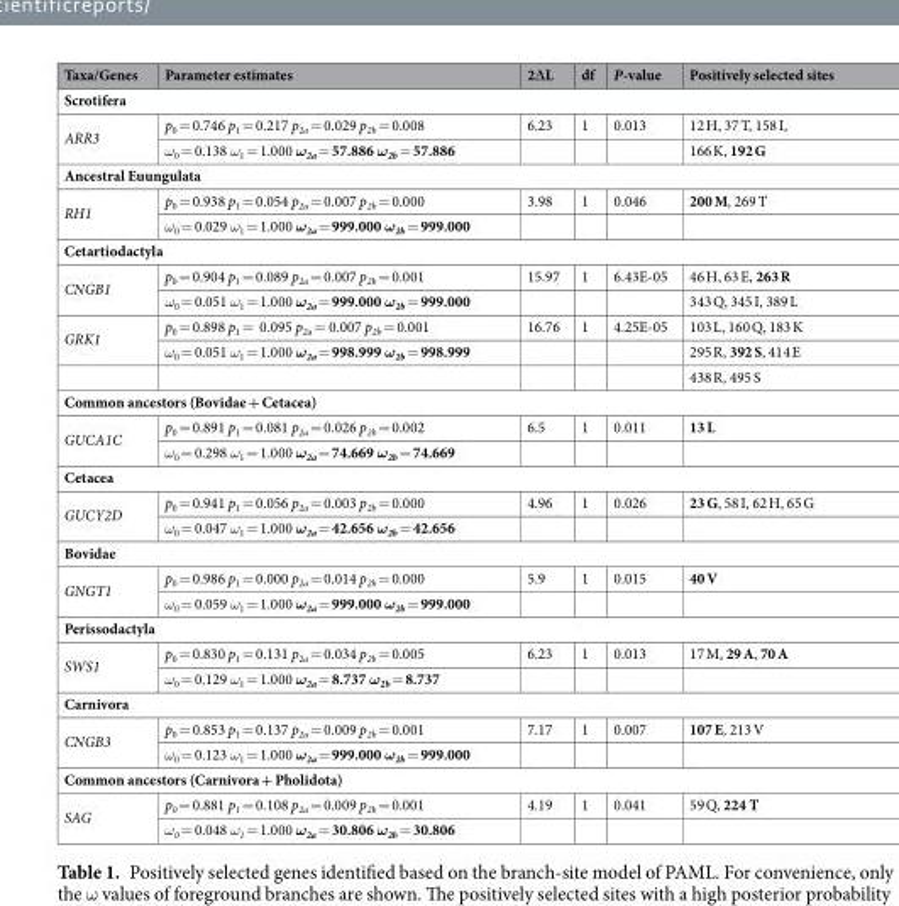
<table><thead><tr><td>Taxa/Genes</td><td>Parameter estimates</td><td>2∆L</td><td>df</td><td>P-value</td><td>Positively selected sites</td></tr></thead><tbody><tr><td colspan="6">Scrotifera</td></tr><tr><td rowspan="2">ARR3</td><td>p<sub>0</sub> = 0.746 p<sub>1</sub> = 0.217 p<sub>2a</sub> = 0.029 p<sub>2b</sub> = 0.008</td><td>6.23</td><td>1</td><td>0.013</td><td>12 H, 37 T, 158 I,</td></tr><tr><td>ω<sub>0</sub> = 0.138 ω<sub>1</sub> = 1.000 ω<sub>2a</sub> = 57.886 ω<sub>2b</sub> = 57.886</td><td></td><td></td><td></td><td>166 K, 192 G</td></tr><tr><td colspan="6">Ancestral Euungulata</td></tr><tr><td rowspan="2">RH1</td><td>p<sub>0</sub> = 0.938 p<sub>1</sub> = 0.054 p<sub>2a</sub> = 0.007 p<sub>2b</sub> = 0.000</td><td>3.98</td><td>1</td><td>0.046</td><td>200 M, 269 T</td></tr><tr><td>ω<sub>0</sub> = 0.029 ω<sub>1</sub> = 1.000 ω<sub>2a</sub> = 999.000 ω<sub>2b</sub> = 999.000</td><td></td><td></td><td></td><td></td></tr><tr><td colspan="6">Cetartiodactyla</td></tr><tr><td rowspan="2">CNGB1</td><td>p<sub>0</sub> = 0.904 p<sub>1</sub> = 0.089 p<sub>2a</sub> = 0.007 p<sub>2b</sub> = 0.001</td><td>15.97</td><td>1</td><td>6.43E-05</td><td>46 H, 63 E, 263 R</td></tr><tr><td>ω<sub>0</sub> = 0.051 ω<sub>1</sub> = 1.000 ω<sub>2a</sub> = 999.000 ω<sub>2b</sub> = 999.000</td><td></td><td></td><td></td><td>343 Q, 345 I, 389 L</td></tr><tr><td rowspan="3">GRK1</td><td>p<sub>0</sub> = 0.898 p<sub>1</sub> = 0.095 p<sub>2a</sub> = 0.007 p<sub>2b</sub> = 0.001</td><td>16.76</td><td>1</td><td>4.25E-05</td><td>103 L, 160 Q, 183 K</td></tr><tr><td>ω<sub>0</sub> = 0.051 ω<sub>1</sub> = 1.000 ω<sub>2a</sub> = 998.999 ω<sub>2b</sub> = 998.999</td><td></td><td></td><td></td><td>295 R, 392 S, 414 E</td></tr><tr><td></td><td></td><td></td><td></td><td>438 R, 495 S</td></tr><tr><td colspan="6">Common ancestors (Bovidae + Cetacea)</td></tr><tr><td rowspan="2">GUCA1C</td><td>p<sub>0</sub> = 0.891 p<sub>1</sub> = 0.081 p<sub>2a</sub> = 0.026 p<sub>2b</sub> = 0.002</td><td>6.5</td><td>1</td><td>0.011</td><td>13 L</td></tr><tr><td>ω<sub>0</sub> = 0.298 ω<sub>1</sub> = 1.000 ω<sub>2a</sub> = 74.669 ω<sub>2b</sub> = 74.669</td><td></td><td></td><td></td><td></td></tr><tr><td colspan="6">Cetacea</td></tr><tr><td rowspan="2">GUCY2D</td><td>p<sub>0</sub> = 0.941 p<sub>1</sub> = 0.056 p<sub>2a</sub> = 0.003 p<sub>2b</sub> = 0.000</td><td>4.96</td><td>1</td><td>0.026</td><td>23 G, 58 I, 62 H, 65 G</td></tr><tr><td>ω<sub>0</sub> = 0.047 ω<sub>1</sub> = 1.000 ω<sub>2a</sub> = 42.656 ω<sub>2b</sub> = 42.656</td><td></td><td></td><td></td><td></td></tr><tr><td colspan="6">Bovidae</td></tr><tr><td rowspan="2">GNGT1</td><td>p<sub>0</sub> = 0.986 p<sub>1</sub> = 0.000 p<sub>2a</sub> = 0.014 p<sub>2b</sub> = 0.000</td><td>5.9</td><td>1</td><td>0.015</td><td>40 V</td></tr><tr><td>ω<sub>0</sub> = 0.059 ω<sub>1</sub> = 1.000 ω<sub>2a</sub> = 999.000 ω<sub>2b</sub> = 999.000</td><td></td><td></td><td></td><td></td></tr><tr><td colspan="6">Perissodactyla</td></tr><tr><td rowspan="2">SWS1</td><td>p<sub>0</sub> = 0.830 p<sub>1</sub> = 0.131 p<sub>2a</sub> = 0.034 p<sub>2b</sub> = 0.005</td><td>6.23</td><td>1</td><td>0.013</td><td>17 M, 29 A, 70 A</td></tr><tr><td>ω<sub>0</sub> = 0.129 ω<sub>1</sub> = 1.000 ω<sub>2a</sub> = 8.737 ω<sub>2b</sub> = 8.737</td><td></td><td></td><td></td><td></td></tr><tr><td colspan="6">Carnivora</td></tr><tr><td rowspan="2">CNGB3</td><td>p<sub>0</sub> = 0.853 p<sub>1</sub> = 0.137 p<sub>2a</sub> = 0.009 p<sub>2b</sub> = 0.001</td><td>7.17</td><td>1</td><td>0.007</td><td>107 E, 213 V</td></tr><tr><td>ω<sub>0</sub> = 0.123 ω<sub>1</sub> = 1.000 ω<sub>2a</sub> = 999.000 ω<sub>2b</sub> = 999.000</td><td></td><td></td><td></td><td></td></tr><tr><td colspan="6">Common ancestors (Carnivora + Pholidota)</td></tr><tr><td rowspan="2">SAG</td><td>p<sub>0</sub> = 0.881 p<sub>1</sub> = 0.108 p<sub>2a</sub> = 0.009 p<sub>2b</sub> = 0.001</td><td>4.19</td><td>1</td><td>0.041</td><td>59 Q, 224 T</td></tr><tr><td>ω<sub>0</sub> = 0.048 ω<sub>1</sub> = 1.000 ω<sub>2a</sub> = 30.806 ω<sub>2b</sub> = 30.806</td><td></td><td></td><td></td><td></td></tr></tbody></table>